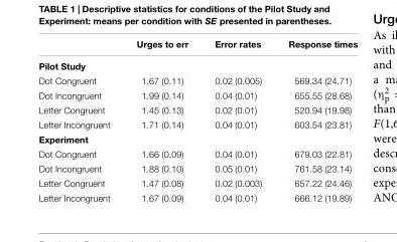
<table><thead><tr><td></td><td>Urges to err</td><td>Error rates</td><td>Response times</td></tr></thead><tbody><tr><td colspan="4">Pilot Study</td></tr><tr><td>Dot Congruent</td><td>1.67 (0.11)</td><td>0.02 (0.005)</td><td>569.34 (24.71)</td></tr><tr><td>Dot Incongruent</td><td>1.99 (0.14)</td><td>0.04 (0.01)</td><td>655.55 (28.68)</td></tr><tr><td>Letter Congruent</td><td>1.45 (0.13)</td><td>0.02 (0.01)</td><td>520.94 (19.98)</td></tr><tr><td>Letter Incongruent</td><td>1.71 (0.14)</td><td>0.04 (0.01)</td><td>603.54 (23.81)</td></tr><tr><td colspan="4">Experiment</td></tr><tr><td>Dot Congruent</td><td>1.66 (0.09)</td><td>0.04 (0.01)</td><td>679.03 (22.81)</td></tr><tr><td>Dot Incongruent</td><td>1.88 (0.10)</td><td>0.05 (0.01)</td><td>761.58 (23.14)</td></tr><tr><td>Letter Congruent</td><td>1.47 (0.08)</td><td>0.02 (0.003)</td><td>657.22 (24.46)</td></tr><tr><td>Letter Incongruent</td><td>1.67 (0.09)</td><td>0.04 (0.01)</td><td>666.12 (19.89)</td></tr></tbody></table>